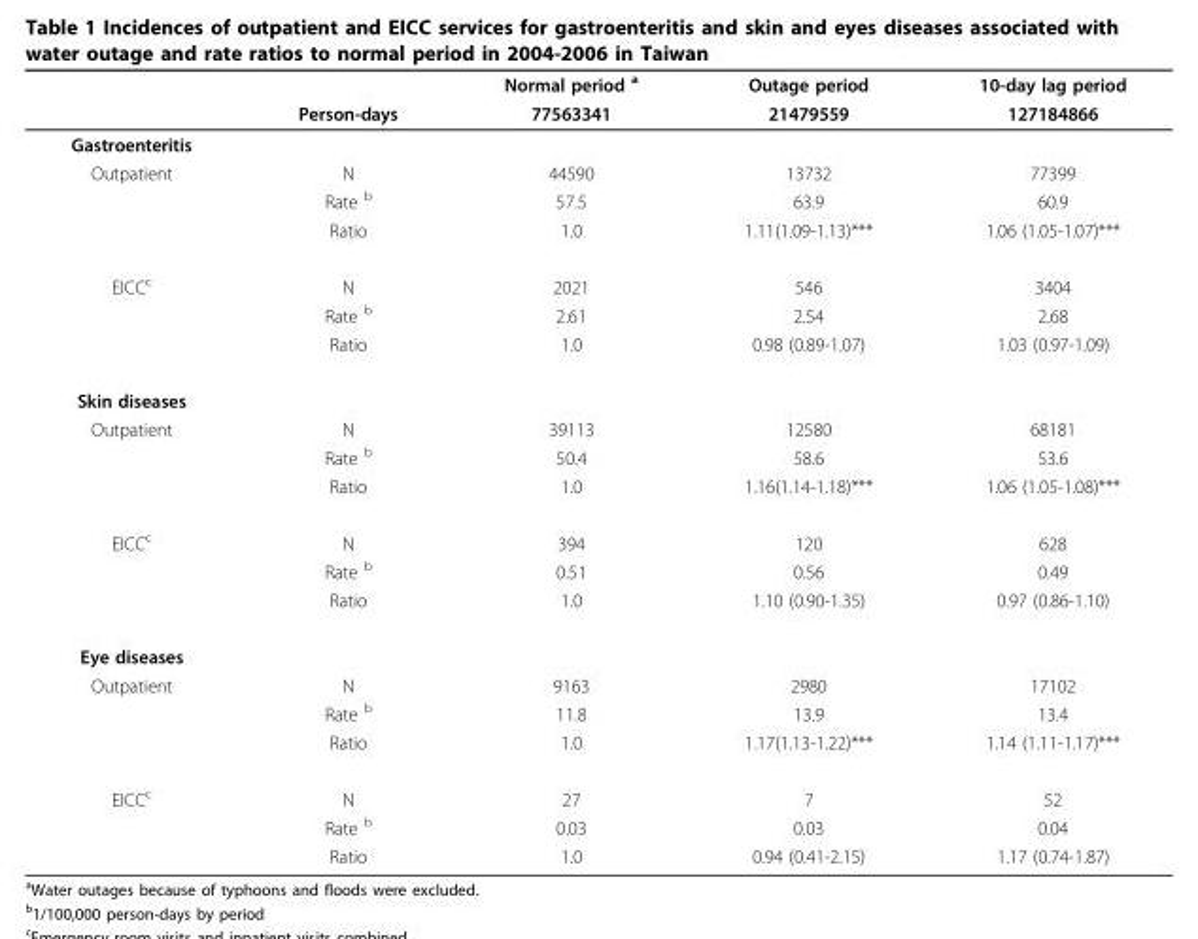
<table><thead><tr><td rowspan="2"></td><td rowspan="2">Person-days</td><td rowspan="2">Normal period <sup>a</sup> 77563341</td><td rowspan="2">Outage period 21479559</td><td rowspan="2">10-day lag period 127184866</td></tr><tr></tr></thead><tbody><tr><td colspan="5">Gastroenteritis</td></tr><tr><td rowspan="3">Outpatient</td><td>N</td><td>44590</td><td>13732</td><td>77399</td></tr><tr><td>Rate <sup>b</sup></td><td>57.5</td><td>63.9</td><td>60.9</td></tr><tr><td>Ratio</td><td>1.0</td><td>1.11(1.09-1.13)***</td><td>1.06 (1.05-1.07)***</td></tr><tr><td rowspan="3">EICC<sup>c</sup></td><td>N</td><td>2021</td><td>546</td><td>3404</td></tr><tr><td>Rate <sup>b</sup></td><td>2.61</td><td>2.54</td><td>2.68</td></tr><tr><td>Ratio</td><td>1.0</td><td>0.98 (0.89-1.07)</td><td>1.03 (0.97-1.09)</td></tr><tr><td colspan="5">Skin diseases</td></tr><tr><td rowspan="3">Outpatient</td><td>N</td><td>39113</td><td>12580</td><td>68181</td></tr><tr><td>Rate <sup>b</sup></td><td>50.4</td><td>58.6</td><td>53.6</td></tr><tr><td>Ratio</td><td>1.0</td><td>1.16(1.14-1.18)***</td><td>1.06 (1.05-1.08)***</td></tr><tr><td rowspan="3">EICC<sup>c</sup></td><td>N</td><td>394</td><td>120</td><td>628</td></tr><tr><td>Rate <sup>b</sup></td><td>0.51</td><td>0.56</td><td>0.49</td></tr><tr><td>Ratio</td><td>1.0</td><td>1.10 (0.90-1.35)</td><td>0.97 (0.86-1.10)</td></tr><tr><td colspan="5">Eye diseases</td></tr><tr><td rowspan="3">Outpatient</td><td>N</td><td>9163</td><td>2980</td><td>17102</td></tr><tr><td>Rate <sup>b</sup></td><td>11.8</td><td>13.9</td><td>13.4</td></tr><tr><td>Ratio</td><td>1.0</td><td>1.17(1.13-1.22)***</td><td>1.14 (1.11-1.17)***</td></tr><tr><td rowspan="3">EICC<sup>c</sup></td><td>N</td><td>27</td><td>7</td><td>52</td></tr><tr><td>Rate <sup>b</sup></td><td>0.03</td><td>0.03</td><td>0.04</td></tr><tr><td>Ratio</td><td>1.0</td><td>0.94 (0.41-2.15)</td><td>1.17 (0.74-1.87)</td></tr></tbody></table>